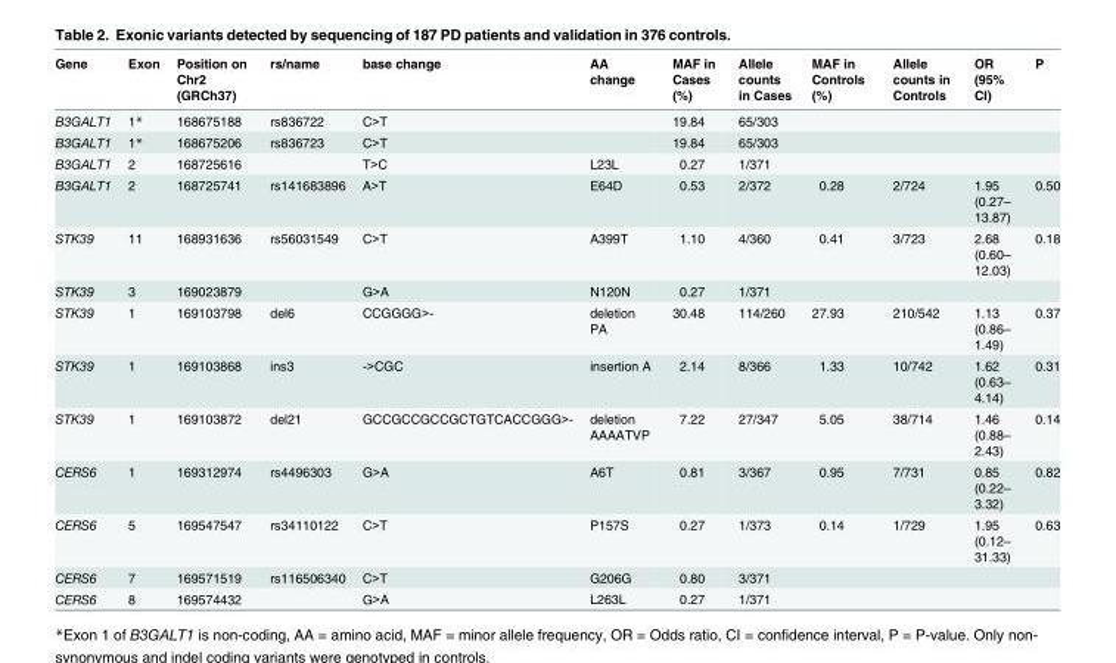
<table><thead><tr><td>Gene</td><td>Exon</td><td>Position on Chr2 (GRCh37)</td><td>rs/name</td><td>base change</td><td>AA change</td><td>MAF in Cases (%)</td><td>Allele counts in Cases</td><td>MAF in Controls (%)</td><td>Allele counts in Controls</td><td>OR (95% CI)</td><td>P</td></tr></thead><tbody><tr><td>B3GALT1</td><td>1*</td><td>168675188</td><td>rs836722</td><td>C&gt;T</td><td></td><td>19.84</td><td>65/303</td><td></td><td></td><td></td><td></td></tr><tr><td>B3GALT1</td><td>1*</td><td>168675206</td><td>rs836723</td><td>C&gt;T</td><td></td><td>19.84</td><td>65/303</td><td></td><td></td><td></td><td></td></tr><tr><td>B3GALT1</td><td>2</td><td>168725616</td><td></td><td>T&gt;C</td><td>L23L</td><td>0.27</td><td>1/371</td><td></td><td></td><td></td><td></td></tr><tr><td>B3GALT1</td><td>2</td><td>168725741</td><td>rs141683896</td><td>A&gt;T</td><td>E64D</td><td>0.53</td><td>2/372</td><td>0.28</td><td>2/724</td><td>1.95 (0.27– 13.87)</td><td>0.50</td></tr><tr><td>STK39</td><td>11</td><td>168931636</td><td>rs56031549</td><td>C&gt;T</td><td>A399T</td><td>1.10</td><td>4/360</td><td>0.41</td><td>3/723</td><td>2.68 (0.60– 12.03)</td><td>0.18</td></tr><tr><td>STK39</td><td>3</td><td>169023879</td><td></td><td>G&gt;A</td><td>N120N</td><td>0.27</td><td>1/371</td><td></td><td></td><td></td><td></td></tr><tr><td>STK39</td><td>1</td><td>169103798</td><td>del6</td><td>CCGGGG&gt;-</td><td>deletion PA</td><td>30.48</td><td>114/260</td><td>27.93</td><td>210/542</td><td>1.13 (0.86– 1.49)</td><td>0.37</td></tr><tr><td>STK39</td><td>1</td><td>169103868</td><td>ins3</td><td>-&gt;CGC</td><td>insertion A</td><td>2.14</td><td>8/366</td><td>1.33</td><td>10/742</td><td>1.62 (0.63– 4.14)</td><td>0.31</td></tr><tr><td>STK39</td><td>1</td><td>169103872</td><td>del21</td><td>GCCGCCGCCGCTGTCACCGGG&gt;-</td><td>deletion AAAATVP</td><td>7.22</td><td>27/347</td><td>5.05</td><td>38/714</td><td>1.46 (0.88– 2.43)</td><td>0.14</td></tr><tr><td>CERS6</td><td>1</td><td>169312974</td><td>rs4496303</td><td>G&gt;A</td><td>A6T</td><td>0.81</td><td>3/367</td><td>0.95</td><td>7/731</td><td>0.85 (0.22– 3.32)</td><td>0.82</td></tr><tr><td>CERS6</td><td>5</td><td>169547547</td><td>rs34110122</td><td>C&gt;T</td><td>P157S</td><td>0.27</td><td>1/373</td><td>0.14</td><td>1/729</td><td>1.95 (0.12– 31.33)</td><td>0.63</td></tr><tr><td>CERS6</td><td>7</td><td>169571519</td><td>rs116506340</td><td>C&gt;T</td><td>G206G</td><td>0.80</td><td>3/371</td><td></td><td></td><td></td><td></td></tr><tr><td>CERS6</td><td>8</td><td>169574432</td><td></td><td>G&gt;A</td><td>L263L</td><td>0.27</td><td>1/371</td><td></td><td></td><td></td><td></td></tr></tbody></table>